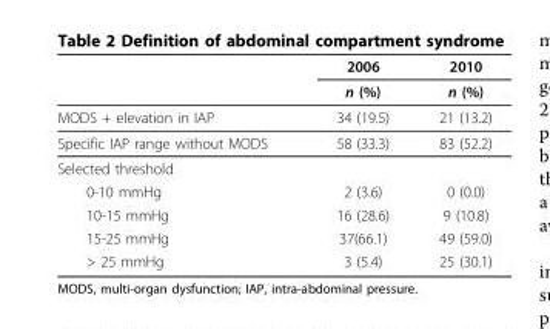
<table><thead><tr><td rowspan="2"></td><td rowspan="2">2006 n (%)</td><td rowspan="2">2010 n (%)</td></tr><tr></tr></thead><tbody><tr><td>MODS + elevation in IAP</td><td>34 (19.5)</td><td>21 (13.2)</td></tr><tr><td>Specific IAP range without MODS</td><td>58 (33.3)</td><td>83 (52.2)</td></tr><tr><td colspan="3">Selected threshold</td></tr><tr><td>0-10 mmHg</td><td>2 (3.6)</td><td>0 (0.0)</td></tr><tr><td>10-15 mmHg</td><td>16 (28.6)</td><td>9 (10.8)</td></tr><tr><td>15-25 mmHg</td><td>37(66.1)</td><td>49 (59.0)</td></tr><tr><td>&gt; 25 mmHg</td><td>3 (5.4)</td><td>25 (30.1)</td></tr></tbody></table>